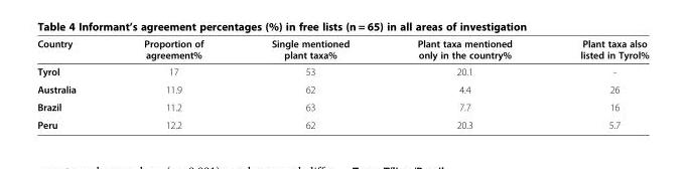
<table><thead><tr><td>Country</td><td>Proportion of agreement%</td><td>Single mentioned plant taxa%</td><td>Plant taxa mentioned only in the country%</td><td>Plant taxa also listed in Tyrol%</td></tr></thead><tbody><tr><td>Tyrol</td><td>17</td><td>53</td><td>20.1</td><td>-</td></tr><tr><td>Australia</td><td>11.9</td><td>62</td><td>4.4</td><td>26</td></tr><tr><td>Brazil</td><td>11.2</td><td>63</td><td>7.7</td><td>16</td></tr><tr><td>Peru</td><td>12.2</td><td>62</td><td>20.3</td><td>5.7</td></tr></tbody></table>